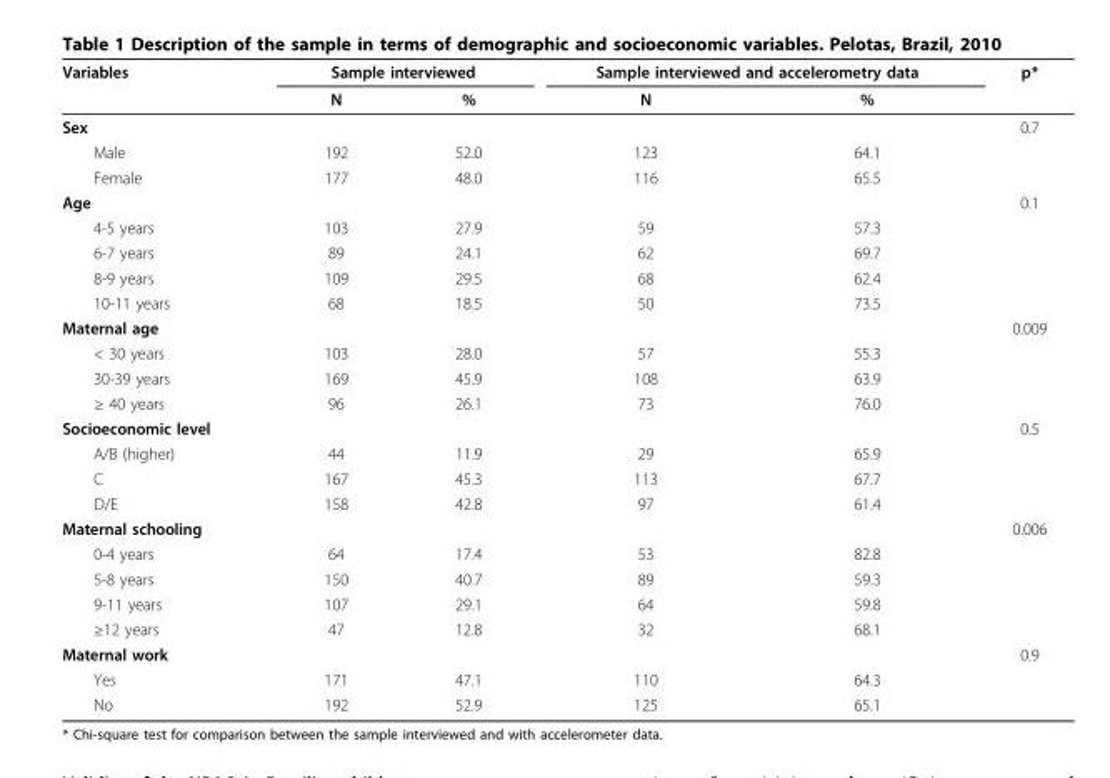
<table><thead><tr><td rowspan="2">Variables</td><td colspan="2">Sample interviewed</td><td colspan="2">Sample interviewed and accelerometry data</td><td rowspan="2">p*</td></tr><tr><td>N</td><td>%</td><td>N</td><td>%</td></tr></thead><tbody><tr><td>Sex</td><td></td><td></td><td></td><td></td><td>0.7</td></tr><tr><td>Male</td><td>192</td><td>52.0</td><td>123</td><td>64.1</td><td></td></tr><tr><td>Female</td><td>177</td><td>48.0</td><td>116</td><td>65.5</td><td></td></tr><tr><td>Age</td><td></td><td></td><td></td><td></td><td>0.1</td></tr><tr><td>4-5 years</td><td>103</td><td>27.9</td><td>59</td><td>57.3</td><td></td></tr><tr><td>6-7 years</td><td>89</td><td>24.1</td><td>62</td><td>69.7</td><td></td></tr><tr><td>8-9 years</td><td>109</td><td>29.5</td><td>68</td><td>62.4</td><td></td></tr><tr><td>10-11 years</td><td>68</td><td>18.5</td><td>50</td><td>73.5</td><td></td></tr><tr><td>Maternal age</td><td></td><td></td><td></td><td></td><td>0.009</td></tr><tr><td>&lt; 30 years</td><td>103</td><td>28.0</td><td>57</td><td>55.3</td><td></td></tr><tr><td>30-39 years</td><td>169</td><td>45.9</td><td>108</td><td>63.9</td><td></td></tr><tr><td>≥ 40 years</td><td>96</td><td>26.1</td><td>73</td><td>76.0</td><td></td></tr><tr><td>Socioeconomic level</td><td></td><td></td><td></td><td></td><td>0.5</td></tr><tr><td>A/B (higher)</td><td>44</td><td>11.9</td><td>29</td><td>65.9</td><td></td></tr><tr><td>C</td><td>167</td><td>45.3</td><td>113</td><td>67.7</td><td></td></tr><tr><td>D/E</td><td>158</td><td>42.8</td><td>97</td><td>61.4</td><td></td></tr><tr><td>Maternal schooling</td><td></td><td></td><td></td><td></td><td>0.006</td></tr><tr><td>0-4 years</td><td>64</td><td>17.4</td><td>53</td><td>82.8</td><td></td></tr><tr><td>5-8 years</td><td>150</td><td>40.7</td><td>89</td><td>59.3</td><td></td></tr><tr><td>9-11 years</td><td>107</td><td>29.1</td><td>64</td><td>59.8</td><td></td></tr><tr><td>≥12 years</td><td>47</td><td>12.8</td><td>32</td><td>68.1</td><td></td></tr><tr><td>Maternal work</td><td></td><td></td><td></td><td></td><td>0.9</td></tr><tr><td>Yes</td><td>171</td><td>47.1</td><td>110</td><td>64.3</td><td></td></tr><tr><td>No</td><td>192</td><td>52.9</td><td>125</td><td>65.1</td><td></td></tr></tbody></table>